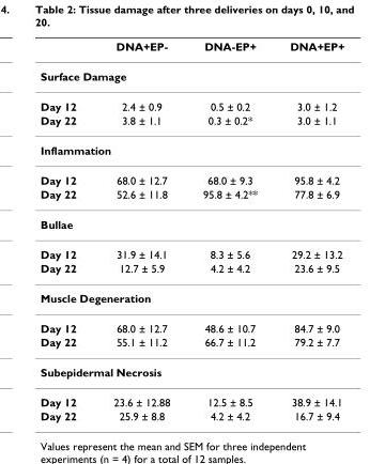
<table><thead><tr><td></td><td>DNA+EP-</td><td>DNA-EP+</td><td>DNA+EP+</td></tr></thead><tbody><tr><td colspan="4">Surface Damage</td></tr><tr><td>Day 12</td><td>2.4 ± 0.9</td><td>0.5 ± 0.2</td><td>3.0 ± 1.2</td></tr><tr><td>Day 22</td><td>3.8 ± 1.1</td><td>0.3 ± 0.2*</td><td>3.0 ± 1.1</td></tr><tr><td colspan="4">Inflammation</td></tr><tr><td>Day 12</td><td>68.0 ± 12.7</td><td>68.0 ± 9.3</td><td>95.8 ± 4.2</td></tr><tr><td>Day 22</td><td>52.6 ± 11.8</td><td>95.8 ± 4.2**</td><td>77.8 ± 6.9</td></tr><tr><td colspan="4">Bullae</td></tr><tr><td>Day 12</td><td>31.9 ± 14.1</td><td>8.3 ± 5.6</td><td>29.2 ± 13.2</td></tr><tr><td>Day 22</td><td>12.7 ± 5.9</td><td>4.2 ± 4.2</td><td>23.6 ± 9.5</td></tr><tr><td colspan="4">Muscle Degeneration</td></tr><tr><td>Day 12</td><td>68.0 ± 12.7</td><td>48.6 ± 10.7</td><td>84.7 ± 9.0</td></tr><tr><td>Day 22</td><td>55.1 ± 11.2</td><td>66.7 ± 11.2</td><td>79.2 ± 7.7</td></tr><tr><td colspan="4">Subepidermal Necrosis</td></tr><tr><td>Day 12</td><td>23.6 ± 12.88</td><td>12.5 ± 8.5</td><td>38.9 ± 14.1</td></tr><tr><td>Day 22</td><td>25.9 ± 8.8</td><td>4.2 ± 4.2</td><td>16.7 ± 9.4</td></tr></tbody></table>